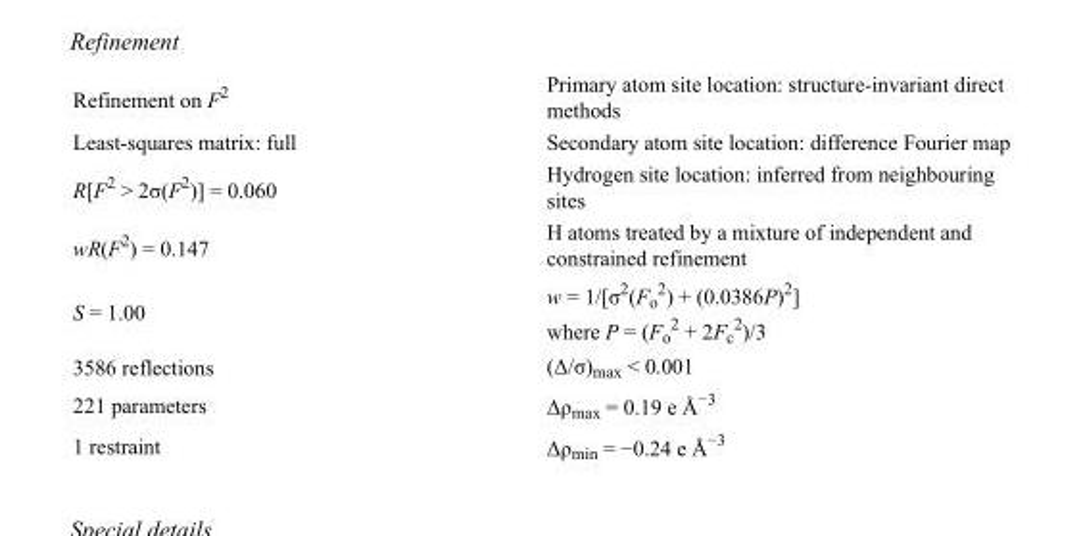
<table><tbody><tr><td>Refinement on F<sup>2</sup></td><td>Primary atom site location: structure-invariant direct methods</td></tr><tr><td>Least-squares matrix: full</td><td>Secondary atom site location: difference Fourier map</td></tr><tr><td>R[F<sup>2</sup> &gt; 2σ(F<sup>2</sup>)] = 0.060</td><td>Hydrogen site location: inferred from neighbouring sites</td></tr><tr><td>wR(F<sup>2</sup>) = 0.147</td><td>H atoms treated by a mixture of independent and constrained refinement</td></tr><tr><td>S = 1.00</td><td>w = 1/[σ<sup>2</sup>(F<sub>o</sub> <sup>2</sup>) + (0.0386P)<sup>2</sup>] where P = (F<sub>o</sub> <sup>2</sup> + 2F<sub>c</sub> <sup>2</sup>)/3</td></tr><tr><td>3586 reflections</td><td>(Δ/σ)<sub>max</sub> &lt; 0.001</td></tr><tr><td>221 parameters</td><td>Δρ<sub>max</sub> = 0.19 e Å<sup>−3</sup></td></tr><tr><td>1 restraint</td><td>Δρ<sub>min</sub> = −0.24 e Å<sup>−3</sup></td></tr></tbody></table>